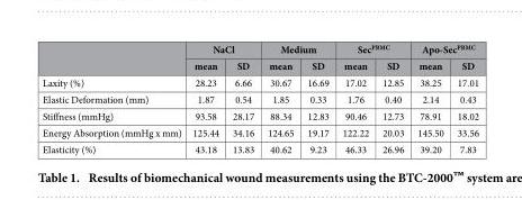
<table><thead><tr><td rowspan="2"></td><td colspan="2">NaCl</td><td colspan="2">Medium</td><td colspan="2">Sec<sup>PBMC</sup></td><td colspan="2">Apo-Sec<sup>PBMC</sup></td></tr><tr><td>mean</td><td>SD</td><td>mean</td><td>SD</td><td>mean</td><td>SD</td><td>mean</td><td>SD</td></tr></thead><tbody><tr><td>Laxity (%)</td><td>28.23</td><td>6.66</td><td>30.67</td><td>16.69</td><td>17.02</td><td>12.85</td><td>38.25</td><td>17.01</td></tr><tr><td>Elastic Deformation (mm)</td><td>1.87</td><td>0.54</td><td>1.85</td><td>0.33</td><td>1.76</td><td>0.40</td><td>2.14</td><td>0.43</td></tr><tr><td>Stiffness (mmHg)</td><td>93.58</td><td>28.17</td><td>88.34</td><td>12.83</td><td>90.46</td><td>12.73</td><td>78.91</td><td>18.02</td></tr><tr><td>Energy Absorption (mmHg x mm)</td><td>125.44</td><td>34.16</td><td>124.65</td><td>19.17</td><td>122.22</td><td>20.03</td><td>145.50</td><td>33.56</td></tr><tr><td>Elasticity (%)</td><td>43.18</td><td>13.83</td><td>40.62</td><td>9.23</td><td>46.33</td><td>26.96</td><td>39.20</td><td>7.83</td></tr></tbody></table>